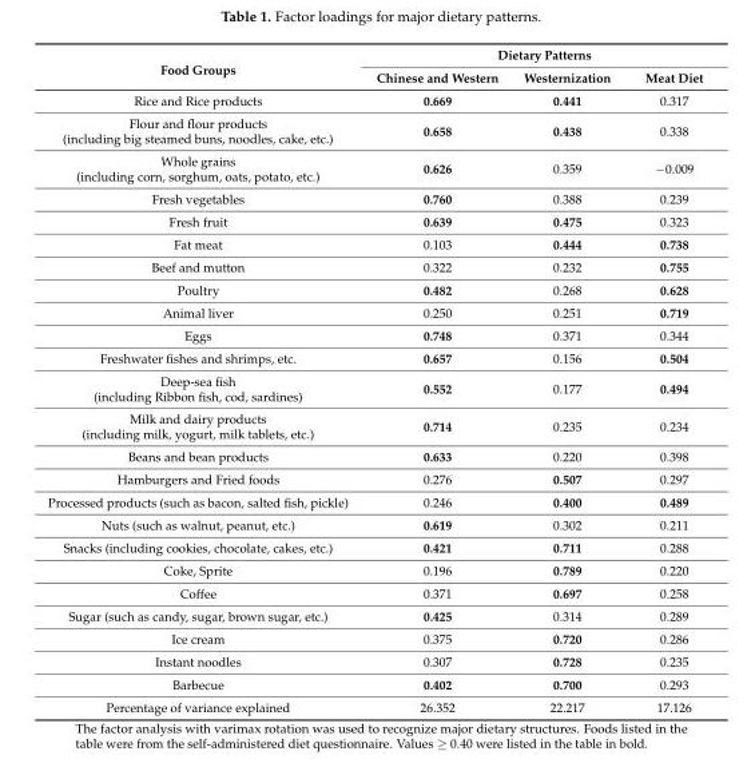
<table><thead><tr><td rowspan="2">Food Groups</td><td colspan="3">Dietary Patterns</td></tr><tr><td>Chinese and Western</td><td>Westernization</td><td>Meat Diet</td></tr></thead><tbody><tr><td>Rice and Rice products</td><td>0.669</td><td>0.441</td><td>0.317</td></tr><tr><td>Flour and flour products (including big steamed buns, noodles, cake, etc.)</td><td>0.658</td><td>0.438</td><td>0.338</td></tr><tr><td>Whole grains (including corn, sorghum, oats, potato, etc.)</td><td>0.626</td><td>0.359</td><td>−0.009</td></tr><tr><td>Fresh vegetables</td><td>0.760</td><td>0.388</td><td>0.239</td></tr><tr><td>Fresh fruit</td><td>0.639</td><td>0.475</td><td>0.323</td></tr><tr><td>Fat meat</td><td>0.103</td><td>0.444</td><td>0.738</td></tr><tr><td>Beef and mutton</td><td>0.322</td><td>0.232</td><td>0.755</td></tr><tr><td>Poultry</td><td>0.482</td><td>0.268</td><td>0.628</td></tr><tr><td>Animal liver</td><td>0.250</td><td>0.251</td><td>0.719</td></tr><tr><td>Eggs</td><td>0.748</td><td>0.371</td><td>0.344</td></tr><tr><td>Freshwater fishes and shrimps, etc.</td><td>0.657</td><td>0.156</td><td>0.504</td></tr><tr><td>Deep-sea fish (including Ribbon fish, cod, sardines)</td><td>0.552</td><td>0.177</td><td>0.494</td></tr><tr><td>Milk and dairy products (including milk, yogurt, milk tablets, etc.)</td><td>0.714</td><td>0.235</td><td>0.234</td></tr><tr><td>Beans and bean products</td><td>0.633</td><td>0.220</td><td>0.398</td></tr><tr><td>Hamburgers and Fried foods</td><td>0.276</td><td>0.507</td><td>0.297</td></tr><tr><td>Processed products (such as bacon, salted fish, pickle)</td><td>0.246</td><td>0.400</td><td>0.489</td></tr><tr><td>Nuts (such as walnut, peanut, etc.)</td><td>0.619</td><td>0.302</td><td>0.211</td></tr><tr><td>Snacks (including cookies, chocolate, cakes, etc.)</td><td>0.421</td><td>0.711</td><td>0.288</td></tr><tr><td>Coke, Sprite</td><td>0.196</td><td>0.789</td><td>0.220</td></tr><tr><td>Coffee</td><td>0.371</td><td>0.697</td><td>0.258</td></tr><tr><td>Sugar (such as candy, sugar, brown sugar, etc.)</td><td>0.425</td><td>0.314</td><td>0.289</td></tr><tr><td>Ice cream</td><td>0.375</td><td>0.720</td><td>0.286</td></tr><tr><td>Instant noodles</td><td>0.307</td><td>0.728</td><td>0.235</td></tr><tr><td>Barbecue</td><td>0.402</td><td>0.700</td><td>0.293</td></tr><tr><td>Percentage of variance explained</td><td>26.352</td><td>22.217</td><td>17.126</td></tr></tbody></table>